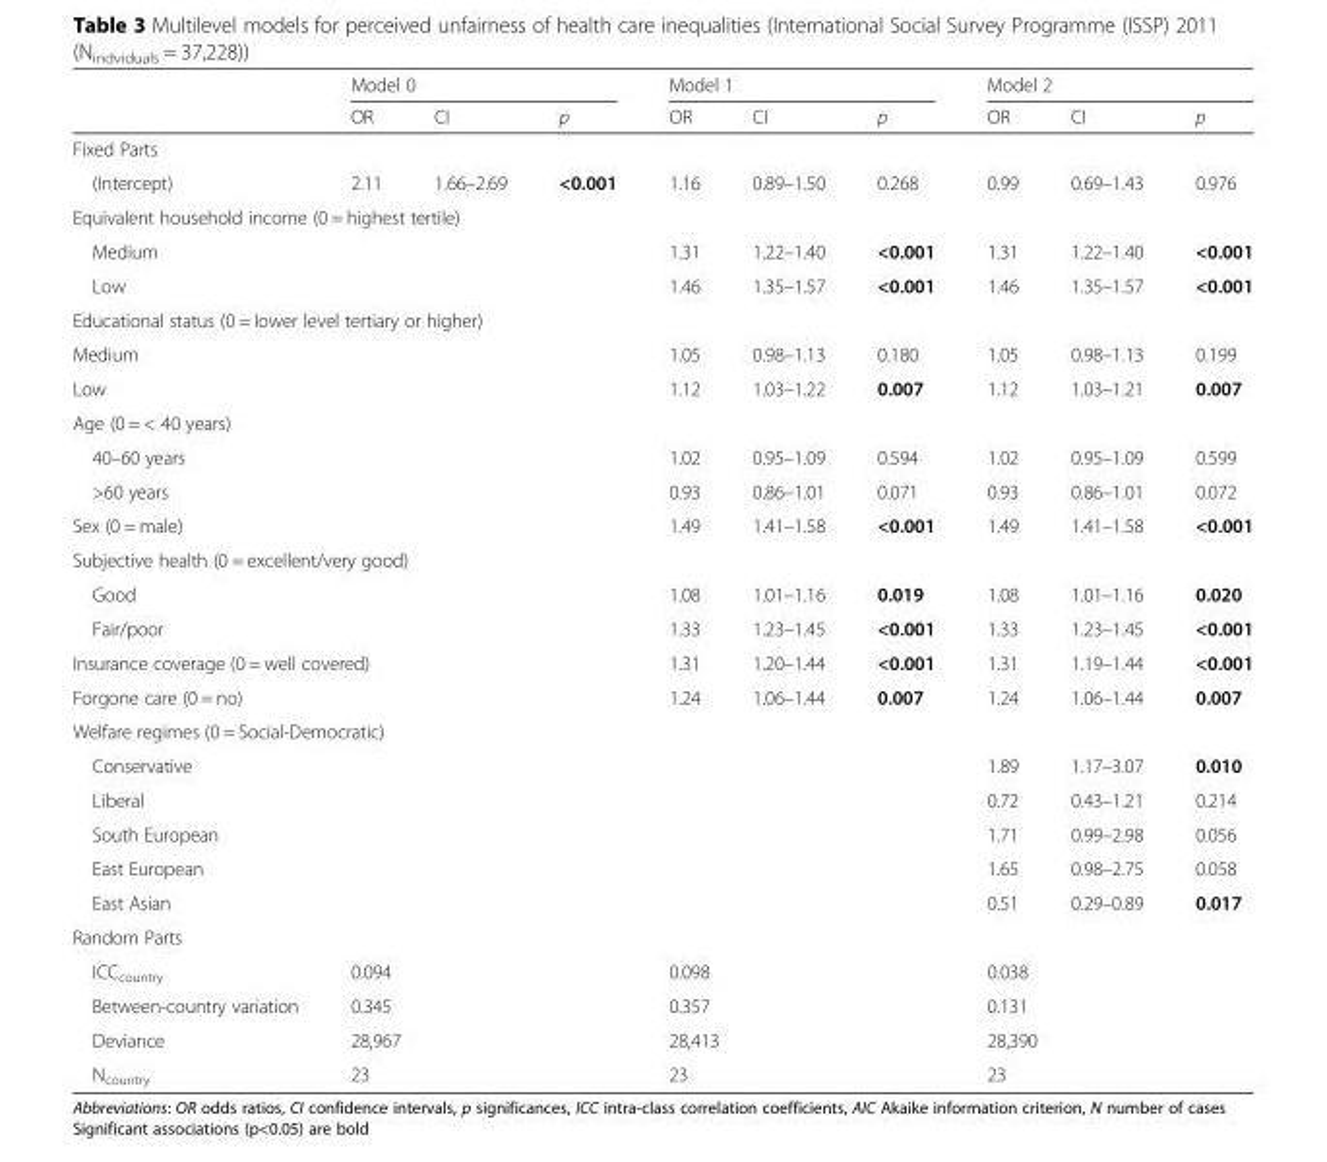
<table><thead><tr><td rowspan="2"></td><td colspan="3">Model 0</td><td colspan="3">Model 1</td><td colspan="3">Model 2</td></tr><tr><td>OR</td><td>CI</td><td>p</td><td>OR</td><td>CI</td><td>p</td><td>OR</td><td>CI</td><td>p</td></tr></thead><tbody><tr><td colspan="10">Fixed Parts</td></tr><tr><td>(Intercept)</td><td>2.11</td><td>1.66–2.69</td><td>&lt;0.001</td><td>1.16</td><td>0.89–1.50</td><td>0.268</td><td>0.99</td><td>0.69–1.43</td><td>0.976</td></tr><tr><td colspan="10">Equivalent household income (0 = highest tertile)</td></tr><tr><td>Medium</td><td></td><td></td><td></td><td>1.31</td><td>1.22–1.40</td><td>&lt;0.001</td><td>1.31</td><td>1.22–1.40</td><td>&lt;0.001</td></tr><tr><td>Low</td><td></td><td></td><td></td><td>1.46</td><td>1.35–1.57</td><td>&lt;0.001</td><td>1.46</td><td>1.35–1.57</td><td>&lt;0.001</td></tr><tr><td colspan="10">Educational status (0 = lower level tertiary or higher)</td></tr><tr><td>Medium</td><td></td><td></td><td></td><td>1.05</td><td>0.98–1.13</td><td>0.180</td><td>1.05</td><td>0.98–1.13</td><td>0.199</td></tr><tr><td>Low</td><td></td><td></td><td></td><td>1.12</td><td>1.03–1.22</td><td>0.007</td><td>1.12</td><td>1.03–1.21</td><td>0.007</td></tr><tr><td colspan="10">Age (0 = &lt; 40 years)</td></tr><tr><td>40–60 years</td><td></td><td></td><td></td><td>1.02</td><td>0.95–1.09</td><td>0.594</td><td>1.02</td><td>0.95–1.09</td><td>0.599</td></tr><tr><td>&gt;60 years</td><td></td><td></td><td></td><td>0.93</td><td>0.86–1.01</td><td>0.071</td><td>0.93</td><td>0.86–1.01</td><td>0.072</td></tr><tr><td>Sex (0 = male)</td><td></td><td></td><td></td><td>1.49</td><td>1.41–1.58</td><td>&lt;0.001</td><td>1.49</td><td>1.41–1.58</td><td>&lt;0.001</td></tr><tr><td colspan="10">Subjective health (0 = excellent/very good)</td></tr><tr><td>Good</td><td></td><td></td><td></td><td>1.08</td><td>1.01–1.16</td><td>0.019</td><td>1.08</td><td>1.01–1.16</td><td>0.020</td></tr><tr><td>Fair/poor</td><td></td><td></td><td></td><td>1.33</td><td>1.23–1.45</td><td>&lt;0.001</td><td>1.33</td><td>1.23–1.45</td><td>&lt;0.001</td></tr><tr><td colspan="4">Insurance coverage (0 = well covered)</td><td>1.31</td><td>1.20–1.44</td><td>&lt;0.001</td><td>1.31</td><td>1.19–1.44</td><td>&lt;0.001</td></tr><tr><td>Forgone care (0 = no)</td><td></td><td></td><td></td><td>1.24</td><td>1.06–1.44</td><td>0.007</td><td>1.24</td><td>1.06–1.44</td><td>0.007</td></tr><tr><td colspan="10">Welfare regimes (0 = Social-Democratic)</td></tr><tr><td>Conservative</td><td></td><td></td><td></td><td></td><td></td><td></td><td>1.89</td><td>1.17–3.07</td><td>0.010</td></tr><tr><td>Liberal</td><td></td><td></td><td></td><td></td><td></td><td></td><td>0.72</td><td>0.43–1.21</td><td>0.214</td></tr><tr><td>South European</td><td></td><td></td><td></td><td></td><td></td><td></td><td>1.71</td><td>0.99–2.98</td><td>0.056</td></tr><tr><td>East European</td><td></td><td></td><td></td><td></td><td></td><td></td><td>1.65</td><td>0.98–2.75</td><td>0.058</td></tr><tr><td>East Asian</td><td></td><td></td><td></td><td></td><td></td><td></td><td>0.51</td><td>0.29–0.89</td><td>0.017</td></tr><tr><td colspan="10">Random Parts</td></tr><tr><td>ICC<sub>country</sub></td><td colspan="3">0.094</td><td colspan="3">0.098</td><td colspan="3">0.038</td></tr><tr><td>Between-country variation</td><td colspan="3">0.345</td><td colspan="3">0.357</td><td colspan="3">0.131</td></tr><tr><td>Deviance</td><td colspan="3">28,967</td><td colspan="3">28,413</td><td colspan="3">28,390</td></tr><tr><td>N<sub>country</sub></td><td colspan="3">23</td><td colspan="3">23</td><td colspan="3">23</td></tr></tbody></table>